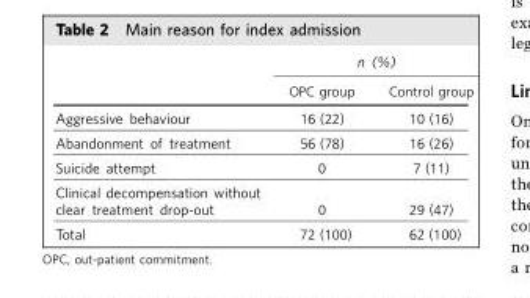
<table><thead><tr><td rowspan="2"></td><td colspan="2">n (%)</td></tr><tr><td>OPC group</td><td>Control group</td></tr></thead><tbody><tr><td>Aggressive behaviour</td><td>16 (22)</td><td>10 (16)</td></tr><tr><td>Abandonment of treatment</td><td>56 (78)</td><td>16 (26)</td></tr><tr><td>Suicide attempt</td><td>0</td><td>7 (11)</td></tr><tr><td>Clinical decompensation without clear treatment drop-out</td><td>0</td><td>29 (47)</td></tr><tr><td>Total</td><td>72 (100)</td><td>62 (100)</td></tr></tbody></table>